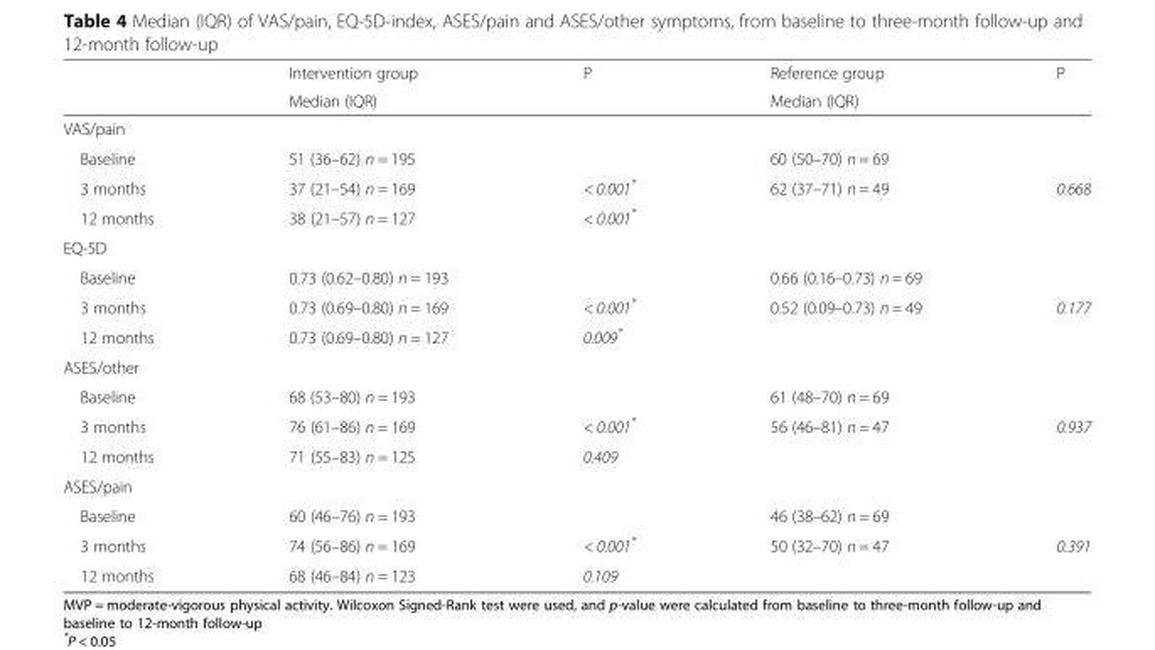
<table><thead><tr><td rowspan="2"></td><td rowspan="2">Intervention group Median (IQR)</td><td rowspan="2">P</td><td rowspan="2">Reference group Median (IQR)</td><td rowspan="2">P</td></tr><tr></tr></thead><tbody><tr><td colspan="5">VAS/pain</td></tr><tr><td>Baseline</td><td>51 (36–62) n = 195</td><td></td><td>60 (50–70) n = 69</td><td></td></tr><tr><td>3 months</td><td>37 (21–54) n = 169</td><td>&lt; 0.001*</td><td>62 (37–71) n = 49</td><td rowspan="2">0.668</td></tr><tr><td>12 months</td><td>38 (21–57) n = 127</td><td>&lt; 0.001*</td><td></td></tr><tr><td colspan="5">EQ-5D</td></tr><tr><td>Baseline</td><td>0.73 (0.62–0.80) n = 193</td><td></td><td>0.66 (0.16–0.73) n = 69</td><td></td></tr><tr><td>3 months</td><td>0.73 (0.69–0.80) n = 169</td><td>&lt; 0.001*</td><td>0.52 (0.09–0.73) n = 49</td><td>0.177</td></tr><tr><td>12 months</td><td>0.73 (0.69–0.80) n = 127</td><td>0.009*</td><td></td><td></td></tr><tr><td colspan="5">ASES/other</td></tr><tr><td>Baseline</td><td>68 (53–80) n = 193</td><td></td><td>61 (48–70) n = 69</td><td></td></tr><tr><td>3 months</td><td>76 (61–86) n = 169</td><td>&lt; 0.001*</td><td>56 (46–81) n = 47</td><td>0.937</td></tr><tr><td>12 months</td><td>71 (55–83) n = 125</td><td>0.409</td><td></td><td></td></tr><tr><td colspan="5">ASES/pain</td></tr><tr><td>Baseline</td><td>60 (46–76) n = 193</td><td></td><td>46 (38–62) n = 69</td><td></td></tr><tr><td>3 months</td><td>74 (56–86) n = 169</td><td>&lt; 0.001*</td><td>50 (32–70) n = 47</td><td>0.391</td></tr><tr><td>12 months</td><td>68 (46–84) n = 123</td><td>0.109</td><td></td><td></td></tr></tbody></table>